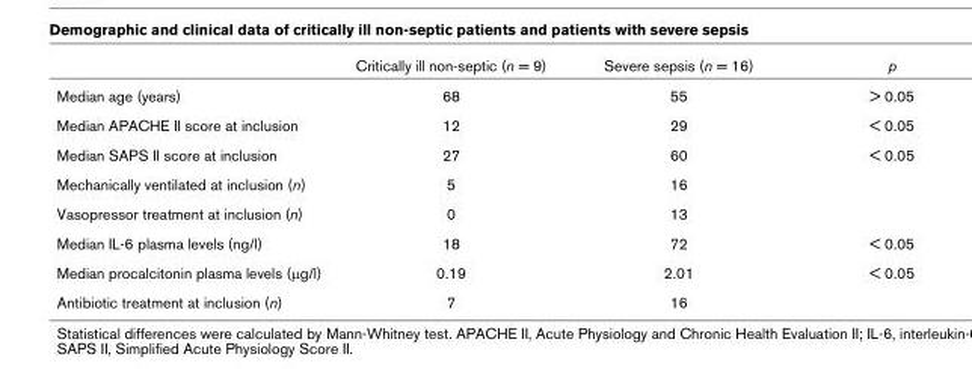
<table><thead><tr><td></td><td>Critically ill non-septic (n = 9)</td><td>Severe sepsis (n = 16)</td><td>p</td></tr></thead><tbody><tr><td>Median age (years)</td><td>68</td><td>55</td><td>&gt; 0.05</td></tr><tr><td>Median APACHE II score at inclusion</td><td>12</td><td>29</td><td>&lt; 0.05</td></tr><tr><td>Median SAPS II score at inclusion</td><td>27</td><td>60</td><td>&lt; 0.05</td></tr><tr><td>Mechanically ventilated at inclusion (n)</td><td>5</td><td>16</td><td></td></tr><tr><td>Vasopressor treatment at inclusion (n)</td><td>0</td><td>13</td><td></td></tr><tr><td>Median IL-6 plasma levels (ng/l)</td><td>18</td><td>72</td><td>&lt; 0.05</td></tr><tr><td>Median procalcitonin plasma levels (μg/l)</td><td>0.19</td><td>2.01</td><td>&lt; 0.05</td></tr><tr><td>Antibiotic treatment at inclusion (n)</td><td>7</td><td>16</td><td></td></tr></tbody></table>